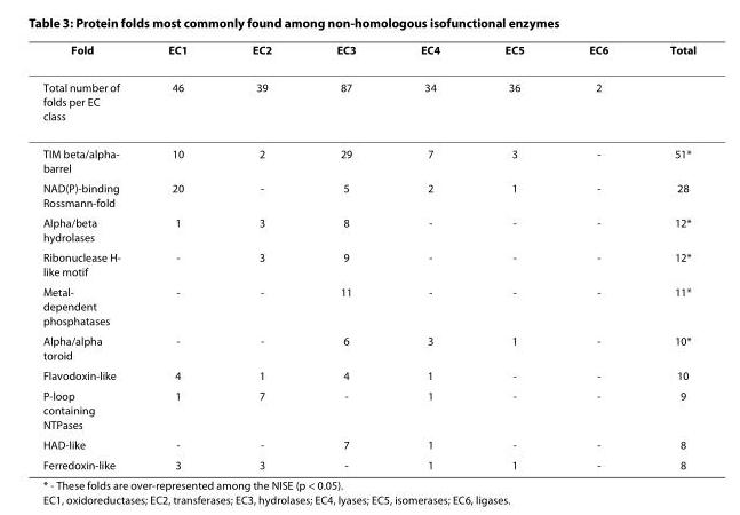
<table><thead><tr><td>Fold</td><td>EC1</td><td>EC2</td><td>EC3</td><td>EC4</td><td>EC5</td><td>EC6</td><td>Total</td></tr></thead><tbody><tr><td>Total number of folds per EC class</td><td>46</td><td>39</td><td>87</td><td>34</td><td>36</td><td>2</td><td></td></tr><tr><td>TIM beta/alpha- barrel</td><td>10</td><td>2</td><td>29</td><td>7</td><td>3</td><td>-</td><td>51*</td></tr><tr><td>NAD(P)-binding Rossmann-fold</td><td>20</td><td>-</td><td>5</td><td>2</td><td>1</td><td>-</td><td>28</td></tr><tr><td>Alpha/beta hydrolases</td><td>1</td><td>3</td><td>8</td><td>-</td><td>-</td><td>-</td><td>12*</td></tr><tr><td>Ribonuclease H- like motif</td><td>-</td><td>3</td><td>9</td><td>-</td><td>-</td><td>-</td><td>12*</td></tr><tr><td>Metal- dependent phosphatases</td><td>-</td><td>-</td><td>11</td><td>-</td><td>-</td><td>-</td><td>11*</td></tr><tr><td>Alpha/alpha toroid</td><td>-</td><td>-</td><td>6</td><td>3</td><td>1</td><td>-</td><td>10*</td></tr><tr><td>Flavodoxin-like</td><td>4</td><td>1</td><td>4</td><td>1</td><td>-</td><td>-</td><td>10</td></tr><tr><td>P-loop containing NTPases</td><td>1</td><td>7</td><td>-</td><td>1</td><td>-</td><td>-</td><td>9</td></tr><tr><td>HAD-like</td><td>-</td><td>-</td><td>7</td><td>1</td><td>-</td><td>-</td><td>8</td></tr><tr><td>Ferredoxin-like</td><td>3</td><td>3</td><td>-</td><td>1</td><td>1</td><td>-</td><td>8</td></tr></tbody></table>